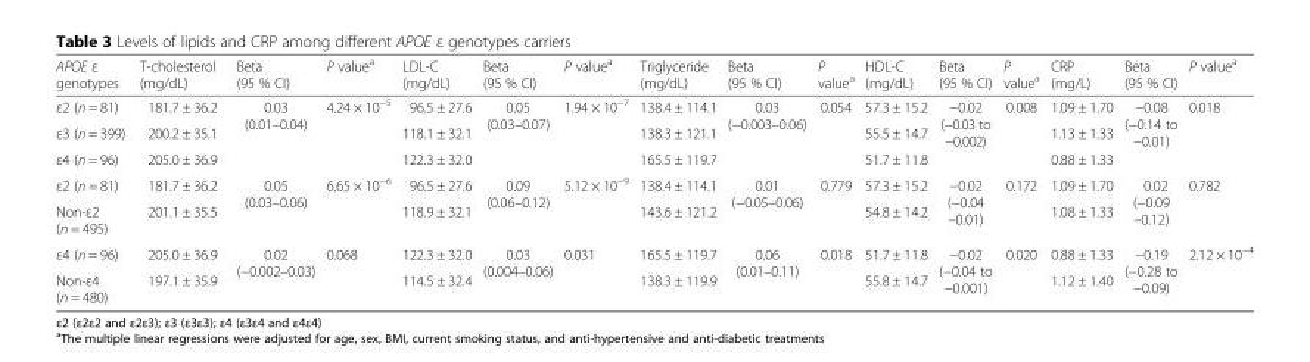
<table><thead><tr><td>APOE ε genotypes</td><td>T-cholesterol (mg/dL)</td><td>Beta (95 % CI)</td><td>P value<sup>a</sup></td><td>LDL-C (mg/dL)</td><td>Beta (95 % CI)</td><td>P value<sup>a</sup></td><td>Triglyceride (mg/dL)</td><td>Beta (95 % CI)</td><td>P value<sup>a</sup></td><td>HDL-C (mg/dL)</td><td>Beta (95 % CI)</td><td>P value<sup>a</sup></td><td>CRP (mg/L)</td><td>Beta (95 % CI)</td><td>P value<sup>a</sup></td></tr></thead><tbody><tr><td>ε2 (n = 81)</td><td>181.7 ± 36.2</td><td rowspan="3">0.03 (0.01–0.04)</td><td rowspan="3">4.24 × 10<sup>−5</sup></td><td>96.5 ± 27.6</td><td rowspan="3">0.05 (0.03–0.07)</td><td rowspan="3">1.94 × 10<sup>−7</sup></td><td>138.4 ± 114.1</td><td rowspan="3">0.03 (−0.003–0.06)</td><td rowspan="3">0.054</td><td>57.3 ± 15.2</td><td rowspan="3">−0.02 (−0.03 to −0.002)</td><td rowspan="3">0.008</td><td>1.09 ± 1.70</td><td rowspan="3">−0.08 (−0.14 to −0.01)</td><td rowspan="3">0.018</td></tr><tr><td>ε3 (n = 399)</td><td>200.2 ± 35.1</td><td>118.1 ± 32.1</td><td>138.3 ± 121.1</td><td>55.5 ± 14.7</td><td>1.13 ± 1.33</td></tr><tr><td>ε4 (n = 96)</td><td>205.0 ± 36.9</td><td>122.3 ± 32.0</td><td>165.5 ± 119.7</td><td>51.7 ± 11.8</td><td>0.88 ± 1.33</td></tr><tr><td>ε2 (n = 81)</td><td>181.7 ± 36.2</td><td rowspan="2">0.05 (0.03–0.06)</td><td rowspan="2">6.65 × 10<sup>−6</sup></td><td>96.5 ± 27.6</td><td rowspan="2">0.09 (0.06–0.12)</td><td rowspan="2">5.12 × 10<sup>−9</sup></td><td>138.4 ± 114.1</td><td rowspan="2">0.01 (−0.05–0.06)</td><td rowspan="2">0.779</td><td>57.3 ± 15.2</td><td rowspan="2">−0.02 (−0.04 –0.01)</td><td rowspan="2">0.172</td><td>1.09 ± 1.70</td><td rowspan="2">0.02 (−0.09 –0.12)</td><td rowspan="2">0.782</td></tr><tr><td>Non-ε2 (n = 495)</td><td>201.1 ± 35.5</td><td>118.9 ± 32.1</td><td>143.6 ± 121.2</td><td>54.8 ± 14.2</td><td>1.08 ± 1.33</td></tr><tr><td>ε4 (n = 96)</td><td>205.0 ± 36.9</td><td rowspan="2">0.02 (−0.002–0.03)</td><td rowspan="2">0.068</td><td>122.3 ± 32.0</td><td rowspan="2">0.03 (0.004–0.06)</td><td rowspan="2">0.031</td><td>165.5 ± 119.7</td><td rowspan="2">0.06 (0.01–0.11)</td><td rowspan="2">0.018</td><td>51.7 ± 11.8</td><td rowspan="2">−0.02 (−0.04 to −0.001)</td><td rowspan="2">0.020</td><td>0.88 ± 1.33</td><td rowspan="2">−0.19 (−0.28 to −0.09)</td><td rowspan="2">2.12 × 10<sup>−4</sup></td></tr><tr><td>Non-ε4 (n = 480)</td><td>197.1 ± 35.9</td><td>114.5 ± 32.4</td><td>138.3 ± 119.9</td><td>55.8 ± 14.7</td><td>1.12 ± 1.40</td></tr></tbody></table>